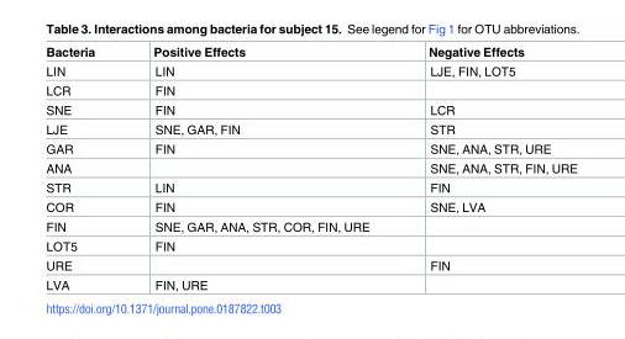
<table><thead><tr><td>Bacteria</td><td>Positive Effects</td><td>Negative Effects</td></tr></thead><tbody><tr><td>LIN</td><td>LIN</td><td>LJE, FIN, LOT5</td></tr><tr><td>LCR</td><td>FIN</td><td></td></tr><tr><td>SNE</td><td>FIN</td><td>LCR</td></tr><tr><td>LJE</td><td>SNE, GAR, FIN</td><td>STR</td></tr><tr><td>GAR</td><td>FIN</td><td>SNE, ANA, STR, URE</td></tr><tr><td>ANA</td><td></td><td>SNE, ANA, STR, FIN, URE</td></tr><tr><td>STR</td><td>LIN</td><td>FIN</td></tr><tr><td>COR</td><td>FIN</td><td>SNE, LVA</td></tr><tr><td>FIN</td><td>SNE, GAR, ANA, STR, COR, FIN, URE</td><td></td></tr><tr><td>LOT5</td><td>FIN</td><td></td></tr><tr><td>URE</td><td></td><td>FIN</td></tr><tr><td>LVA</td><td>FIN, URE</td><td></td></tr></tbody></table>